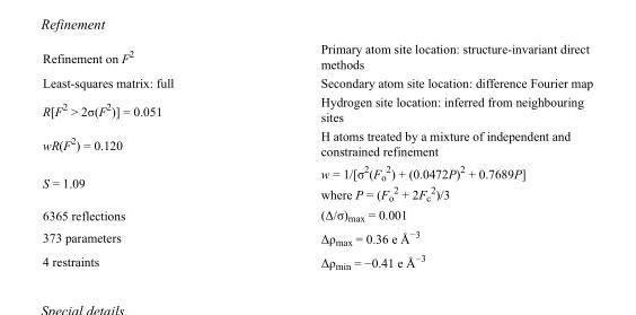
<table><tbody><tr><td>Refinement on F<sup>2</sup></td><td>Primary atom site location: structure-invariant direct methods</td></tr><tr><td>Least-squares matrix: full</td><td>Secondary atom site location: difference Fourier map</td></tr><tr><td>R[F<sup>2</sup> &gt; 2σ(F<sup>2</sup>)] = 0.051</td><td>Hydrogen site location: inferred from neighbouring sites</td></tr><tr><td>wR(F<sup>2</sup>) = 0.120</td><td>H atoms treated by a mixture of independent and constrained refinement</td></tr><tr><td>S = 1.09</td><td>w = 1/[σ<sup>2</sup>(F<sub>o</sub> <sup>2</sup>) + (0.0472P)<sup>2</sup> + 0.7689P] where P = (F<sub>o</sub> <sup>2</sup> + 2F<sub>c</sub> <sup>2</sup>)/3</td></tr><tr><td>6365 reflections</td><td>(Δ/σ)<sub>max</sub> = 0.001</td></tr><tr><td>373 parameters</td><td>Δρ<sub>max</sub> = 0.36 e Å<sup>−3</sup></td></tr><tr><td>4 restraints</td><td>Δρ<sub>min</sub> = −0.41 e Å<sup>−3</sup></td></tr></tbody></table>